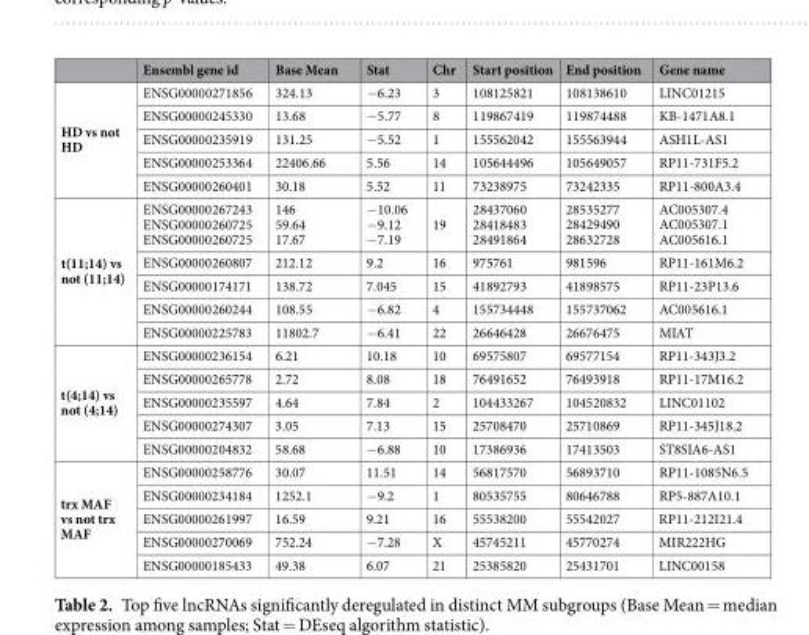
<table><thead><tr><td></td><td>Ensembl gene id</td><td>Base Mean</td><td>Stat</td><td>Chr</td><td>Start position</td><td>End position</td><td>Gene name</td></tr></thead><tbody><tr><td rowspan="5">HD vs not HD</td><td>ENSG00000271856</td><td>324.13</td><td>− 6.23</td><td>3</td><td>108125821</td><td>108138610</td><td>LINC01215</td></tr><tr><td>ENSG00000245330</td><td>13.68</td><td>− 5.77</td><td>8</td><td>119867419</td><td>119874488</td><td>KB-1471A8.1</td></tr><tr><td>ENSG00000235919</td><td>131.25</td><td>− 5.52</td><td>1</td><td>155562042</td><td>155563944</td><td>ASH1L-AS1</td></tr><tr><td>ENSG00000253364</td><td>22406.66</td><td>5.56</td><td>14</td><td>105644496</td><td>105649057</td><td>RP11-731F5.2</td></tr><tr><td>ENSG00000260401</td><td>30.18</td><td>5.52</td><td>11</td><td>73238975</td><td>73242335</td><td>RP11-800A3.4</td></tr><tr><td rowspan="5">t(11;14) vs not (11;14)</td><td>ENSG00000267243 ENSG00000260725 ENSG00000260725</td><td>146 59.64 17.67</td><td>− 10.06 − 9.12 − 7.19</td><td>19</td><td>28437060 28418483 28491864</td><td>28535277 28429490 28632728</td><td>AC005307.4 AC005307.1 AC005616.1</td></tr><tr><td>ENSG00000260807</td><td>212.12</td><td>9.2</td><td>16</td><td>975761</td><td>981596</td><td>RP11-161M6.2</td></tr><tr><td>ENSG00000174171</td><td>138.72</td><td>7.045</td><td>15</td><td>41892793</td><td>41898575</td><td>RP11-23P13.6</td></tr><tr><td>ENSG00000260244</td><td>108.55</td><td>− 6.82</td><td>4</td><td>155734448</td><td>155737062</td><td>AC005616.1</td></tr><tr><td>ENSG00000225783</td><td>11802.7</td><td>− 6.41</td><td>22</td><td>26646428</td><td>26676475</td><td>MIAT</td></tr><tr><td rowspan="5">t(4;14) vs not (4;14)</td><td>ENSG00000236154</td><td>6.21</td><td>10.18</td><td>10</td><td>69575807</td><td>69577154</td><td>RP11-343J3.2</td></tr><tr><td>ENSG00000265778</td><td>2.72</td><td>8.08</td><td>18</td><td>76491652</td><td>76493918</td><td>RP11-17M16.2</td></tr><tr><td>ENSG00000235597</td><td>4.64</td><td>7.84</td><td>2</td><td>104433267</td><td>104520832</td><td>LINC01102</td></tr><tr><td>ENSG00000274307</td><td>3.05</td><td>7.13</td><td>15</td><td>25708470</td><td>25710869</td><td>RP11-345J18.2</td></tr><tr><td>ENSG00000204832</td><td>58.68</td><td>− 6.88</td><td>10</td><td>17386936</td><td>17413503</td><td>ST8SIA6-AS1</td></tr><tr><td rowspan="5">trx MAF vs not trx MAF</td><td>ENSG00000258776</td><td>30.07</td><td>11.51</td><td>14</td><td>56817570</td><td>56893710</td><td>RP11-1085N6.5</td></tr><tr><td>ENSG00000234184</td><td>1252.1</td><td>− 9.2</td><td>1</td><td>80535755</td><td>80646788</td><td>RP5-887A10.1</td></tr><tr><td>ENSG00000261997</td><td>16.59</td><td>9.21</td><td>16</td><td>55538200</td><td>55542027</td><td>RP11-212I21.4</td></tr><tr><td>ENSG00000270069</td><td>752.24</td><td>− 7.28</td><td>X</td><td>45745211</td><td>45770274</td><td>MIR222HG</td></tr><tr><td>ENSG00000185433</td><td>49.38</td><td>6.07</td><td>21</td><td>25385820</td><td>25431701</td><td>LINC00158</td></tr></tbody></table>